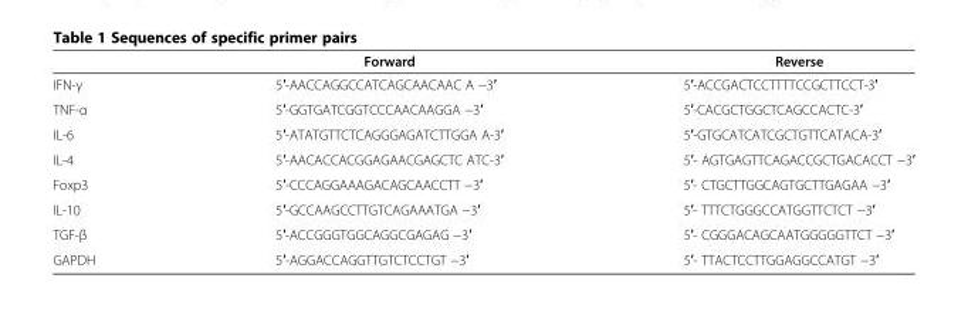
<table><thead><tr><td></td><td>Forward</td><td>Reverse</td></tr></thead><tbody><tr><td>IFN-γ</td><td>5′-AACCAGGCCATCAGCAACAAC A −3′</td><td>5′-ACCGACTCCTTTTCCGCTTCCT-3′</td></tr><tr><td>TNF-α</td><td>5′-GGTGATCGGTCCCAACAAGGA −3′</td><td>5′-CACGCTGGCTCAGCCACTC-3′</td></tr><tr><td>IL-6</td><td>5′-ATATGTTCTCAGGGAGATCTTGGA A-3′</td><td>5′-GTGCATCATCGCTGTTCATACA-3′</td></tr><tr><td>IL-4</td><td>5′-AACACCACGGAGAACGAGCTC ATC-3′</td><td>5′- AGTGAGTTCAGACCGCTGACACCT −3′</td></tr><tr><td>Foxp3</td><td>5′-CCCAGGAAAGACAGCAACCTT −3′</td><td>5′- CTGCTTGGCAGTGCTTGAGAA −3′</td></tr><tr><td>IL-10</td><td>5′-GCCAAGCCTTGTCAGAAATGA −3′</td><td>5′- TTTCTGGGCCATGGTTCTCT −3′</td></tr><tr><td>TGF-β</td><td>5′-ACCGGGTGGCAGGCGAGAG −3′</td><td>5′- CGGGACAGCAATGGGGGTTCT −3′</td></tr><tr><td>GAPDH</td><td>5′-AGGACCAGGTTGTCTCCTGT −3′</td><td>5′- TTACTCCTTGGAGGCCATGT −3′</td></tr></tbody></table>